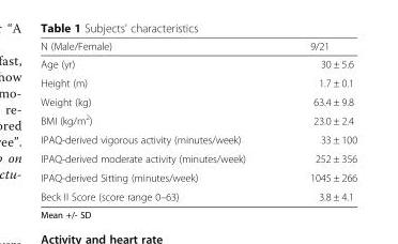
<table><thead><tr><td>N (Male/Female)</td><td>9/21</td></tr></thead><tbody><tr><td>Age (yr)</td><td>30 ± 5.6</td></tr><tr><td>Height (m)</td><td>1.7 ± 0.1</td></tr><tr><td>Weight (kg)</td><td>63.4 ± 9.8</td></tr><tr><td>BMI (kg/m<sup>2</sup>)</td><td>23.0 ± 2.4</td></tr><tr><td>IPAQ-derived vigorous activity (minutes/week)</td><td>33 ± 100</td></tr><tr><td>IPAQ-derived moderate activity (minutes/week)</td><td>252 ± 356</td></tr><tr><td>IPAQ-derived Sitting (minutes/week)</td><td>1045 ± 266</td></tr><tr><td>Beck II Score (score range 0–63)</td><td>3.8 ± 4.1</td></tr></tbody></table>